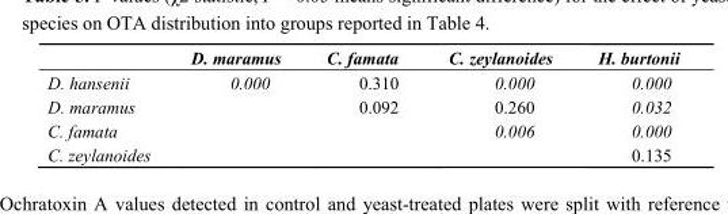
<table><thead><tr><td></td><td>D. maramus</td><td>C. famata</td><td>C. zeylanoides</td><td>H. burtonii</td></tr></thead><tbody><tr><td>D. hansenii</td><td>0.000</td><td>0.310</td><td>0.000</td><td>0.000</td></tr><tr><td>D. maramus</td><td></td><td>0.092</td><td>0.260</td><td>0.032</td></tr><tr><td>C. famata</td><td></td><td></td><td>0.006</td><td>0.000</td></tr><tr><td>C. zeylanoides</td><td></td><td></td><td></td><td>0.135</td></tr></tbody></table>